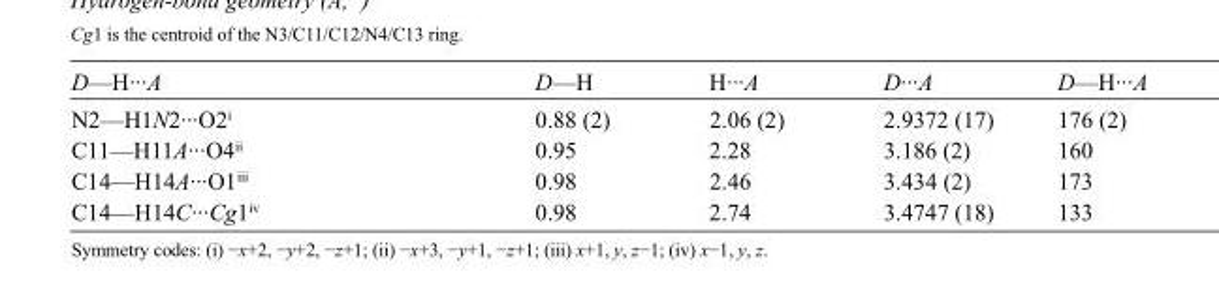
<table><tbody><tr><td>D—H···A</td><td>D—H</td><td>H···A</td><td>D···A</td><td>D—H···A</td></tr><tr><td>N2—H1N2···O2<sup>i</sup></td><td>0.88 (2)</td><td>2.06 (2)</td><td>2.9372 (17)</td><td>176 (2)</td></tr><tr><td>C11—H11A···O4<sup>ii</sup></td><td>0.95</td><td>2.28</td><td>3.186 (2)</td><td>160</td></tr><tr><td>C14—H14A···O1<sup>iii</sup></td><td>0.98</td><td>2.46</td><td>3.434 (2)</td><td>173</td></tr><tr><td>C14—H14C···Cg1<sup>iv</sup></td><td>0.98</td><td>2.74</td><td>3.4747 (18)</td><td>133</td></tr></tbody></table>